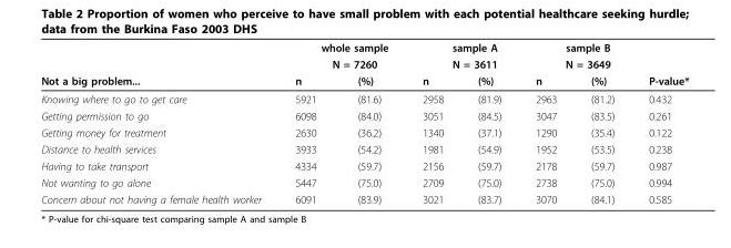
<table><thead><tr><td rowspan="3">Not a big problem...</td><td rowspan="2" colspan="2">whole sample N = 7260</td><td rowspan="2" colspan="2">sample A N = 3611</td><td rowspan="2" colspan="2">sample B N = 3649</td><td rowspan="3">P-value*</td></tr><tr></tr><tr><td>n</td><td>(%)</td><td>n</td><td>(%)</td><td>n</td><td>(%)</td></tr></thead><tbody><tr><td>Knowing where to go to get care</td><td>5921</td><td>(81.6)</td><td>2958</td><td>(81.9)</td><td>2963</td><td>(81.2)</td><td>0.432</td></tr><tr><td>Getting permission to go</td><td>6098</td><td>(84.0)</td><td>3051</td><td>(84.5)</td><td>3047</td><td>(83.5)</td><td>0.261</td></tr><tr><td>Getting money for treatment</td><td>2630</td><td>(36.2)</td><td>1340</td><td>(37.1)</td><td>1290</td><td>(35.4)</td><td>0.122</td></tr><tr><td>Distance to health services</td><td>3933</td><td>(54.2)</td><td>1981</td><td>(54.9)</td><td>1952</td><td>(53.5)</td><td>0.238</td></tr><tr><td>Having to take transport</td><td>4334</td><td>(59.7)</td><td>2156</td><td>(59.7)</td><td>2178</td><td>(59.7)</td><td>0.987</td></tr><tr><td>Not wanting to go alone</td><td>5447</td><td>(75.0)</td><td>2709</td><td>(75.0)</td><td>2738</td><td>(75.0)</td><td>0.994</td></tr><tr><td>Concern about not having a female health worker</td><td>6091</td><td>(83.9)</td><td>3021</td><td>(83.7)</td><td>3070</td><td>(84.1)</td><td>0.585</td></tr></tbody></table>